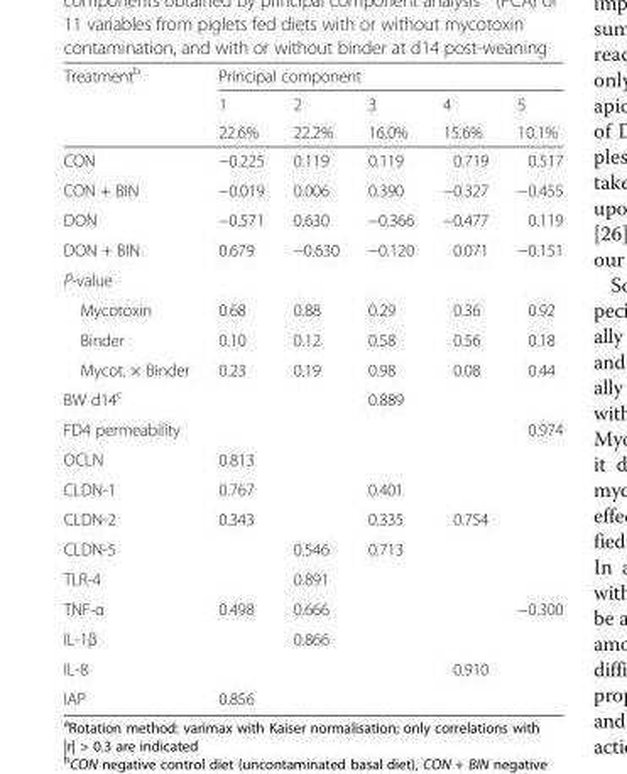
<table><thead><tr><td rowspan="3">Treatment<sup>b</sup></td><td colspan="5">Principal component</td></tr><tr><td rowspan="2">1 22.6%</td><td rowspan="2">2 22.2%</td><td rowspan="2">3 16.0%</td><td rowspan="2">4 15.6%</td><td rowspan="2">5 10.1%</td></tr><tr></tr></thead><tbody><tr><td>CON</td><td>−0.225</td><td>0.119</td><td>0.119</td><td>0.719</td><td>0.517</td></tr><tr><td>CON + BIN</td><td>−0.019</td><td>0.006</td><td>0.390</td><td>−0.327</td><td>−0.455</td></tr><tr><td>DON</td><td>−0.571</td><td>0.630</td><td>−0.366</td><td>−0.477</td><td>0.119</td></tr><tr><td>DON + BIN</td><td>0.679</td><td>−0.630</td><td>−0.120</td><td>0.071</td><td>−0.151</td></tr><tr><td colspan="6">P-value</td></tr><tr><td>Mycotoxin</td><td>0.68</td><td>0.88</td><td>0.29</td><td>0.36</td><td>0.92</td></tr><tr><td>Binder</td><td>0.10</td><td>0.12</td><td>0.58</td><td>0.56</td><td>0.18</td></tr><tr><td>Mycot. × Binder</td><td>0.23</td><td>0.19</td><td>0.98</td><td>0.08</td><td>0.44</td></tr><tr><td>BW d14<sup>c</sup></td><td></td><td></td><td>0.889</td><td></td><td></td></tr><tr><td>FD4 permeability</td><td></td><td></td><td></td><td></td><td>0.974</td></tr><tr><td>OCLN</td><td>0.813</td><td></td><td></td><td></td><td></td></tr><tr><td>CLDN-1</td><td>0.767</td><td></td><td>0.401</td><td></td><td></td></tr><tr><td>CLDN-2</td><td>0.343</td><td></td><td>0.335</td><td>0.754</td><td></td></tr><tr><td>CLDN-5</td><td></td><td>0.546</td><td>0.713</td><td></td><td></td></tr><tr><td>TLR-4</td><td></td><td>0.891</td><td></td><td></td><td></td></tr><tr><td>TNF-α</td><td>0.498</td><td>0.666</td><td></td><td></td><td>−0.300</td></tr><tr><td>IL-1β</td><td></td><td>0.866</td><td></td><td></td><td></td></tr><tr><td>IL-8</td><td></td><td></td><td></td><td>0.910</td><td></td></tr><tr><td>IAP</td><td>0.856</td><td></td><td></td><td></td><td></td></tr></tbody></table>